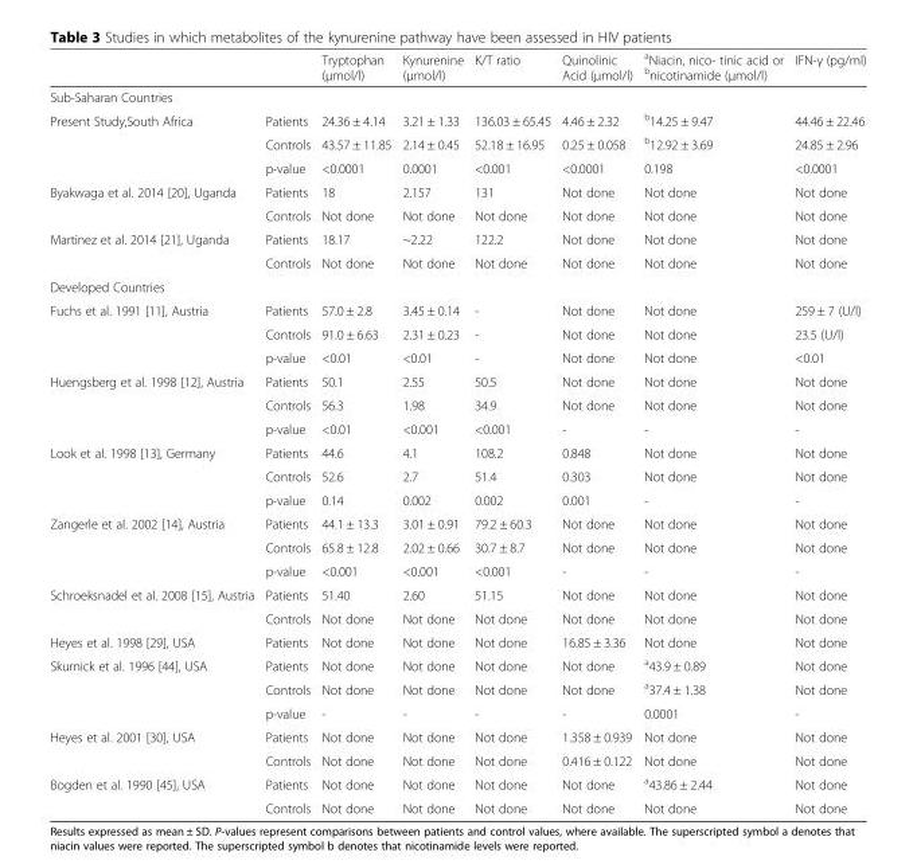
<table><thead><tr><td></td><td></td><td>Tryptophan (μmol/l)</td><td>Kynurenine (μmol/l)</td><td>K/T ratio</td><td>Quinolinic Acid (μmol/l)</td><td><sup>a</sup>Niacin, nico- tinic acid or <sup>b</sup>nicotinamide (μmol/l)</td><td>IFN-γ (pg/ml)</td></tr></thead><tbody><tr><td colspan="8">Sub-Saharan Countries</td></tr><tr><td rowspan="3">Present Study,South Africa</td><td>Patients</td><td>24.36 ± 4.14</td><td>3.21 ± 1.33</td><td>136.03 ± 65.45</td><td>4.46 ± 2.32</td><td><sup>b</sup>14.25 ± 9.47</td><td>44.46 ± 22.46</td></tr><tr><td>Controls</td><td>43.57 ± 11.85</td><td>2.14 ± 0.45</td><td>52.18 ± 16.95</td><td>0.25 ± 0.058</td><td><sup>b</sup>12.92 ± 3.69</td><td>24.85 ± 2.96</td></tr><tr><td>p-value</td><td>&lt;0.0001</td><td>0.0001</td><td>&lt;0.001</td><td>&lt;0.0001</td><td>0.198</td><td>&lt;0.0001</td></tr><tr><td rowspan="2">Byakwaga et al. 2014 [20], Uganda</td><td>Patients</td><td>18</td><td>2.157</td><td>131</td><td>Not done</td><td>Not done</td><td>Not done</td></tr><tr><td>Controls</td><td>Not done</td><td>Not done</td><td>Not done</td><td>Not done</td><td>Not done</td><td>Not done</td></tr><tr><td rowspan="2">Martinez et al. 2014 [21], Uganda</td><td>Patients</td><td>18.17</td><td>~2.22</td><td>122.2</td><td>Not done</td><td>Not done</td><td>Not done</td></tr><tr><td>Controls</td><td>Not done</td><td>Not done</td><td>Not done</td><td>Not done</td><td>Not done</td><td>Not done</td></tr><tr><td colspan="8">Developed Countries</td></tr><tr><td rowspan="3">Fuchs et al. 1991 [11], Austria</td><td>Patients</td><td>57.0 ± 2.8</td><td>3.45 ± 0.14</td><td>-</td><td>Not done</td><td>Not done</td><td>259 ± 7 (U/l)</td></tr><tr><td>Controls</td><td>91.0 ± 6.63</td><td>2.31 ± 0.23</td><td>-</td><td>Not done</td><td>Not done</td><td>23.5 (U/l)</td></tr><tr><td>p-value</td><td>&lt;0.01</td><td>&lt;0.01</td><td>-</td><td>Not done</td><td>Not done</td><td>&lt;0.01</td></tr><tr><td rowspan="3">Huengsberg et al. 1998 [12], Austria</td><td>Patients</td><td>50.1</td><td>2.55</td><td>50.5</td><td>Not done</td><td>Not done</td><td>Not done</td></tr><tr><td>Controls</td><td>56.3</td><td>1.98</td><td>34.9</td><td>Not done</td><td>Not done</td><td>Not done</td></tr><tr><td>p-value</td><td>&lt;0.01</td><td>&lt;0.001</td><td>&lt;0.001</td><td>-</td><td>-</td><td>-</td></tr><tr><td rowspan="3">Look et al. 1998 [13], Germany</td><td>Patients</td><td>44.6</td><td>4.1</td><td>108.2</td><td>0.848</td><td>Not done</td><td>Not done</td></tr><tr><td>Controls</td><td>52.6</td><td>2.7</td><td>51.4</td><td>0.303</td><td>Not done</td><td>Not done</td></tr><tr><td>p-value</td><td>0.14</td><td>0.002</td><td>0.002</td><td>0.001</td><td>-</td><td>-</td></tr><tr><td rowspan="3">Zangerle et al. 2002 [14], Austria</td><td>Patients</td><td>44.1 ± 13.3</td><td>3.01 ± 0.91</td><td>79.2 ± 60.3</td><td>Not done</td><td>Not done</td><td>Not done</td></tr><tr><td>Controls</td><td>65.8 ± 12.8</td><td>2.02 ± 0.66</td><td>30.7 ± 8.7</td><td>Not done</td><td>Not done</td><td>Not done</td></tr><tr><td>p-value</td><td>&lt;0.001</td><td>&lt;0.001</td><td>&lt;0.001</td><td>-</td><td>-</td><td>-</td></tr><tr><td rowspan="2">Schroeksnadel et al. 2008 [15], Austria</td><td>Patients</td><td>51.40</td><td>2.60</td><td>51.15</td><td>Not done</td><td>Not done</td><td>Not done</td></tr><tr><td>Controls</td><td>Not done</td><td>Not done</td><td>Not done</td><td>Not done</td><td>Not done</td><td>Not done</td></tr><tr><td>Heyes et al. 1998 [29], USA</td><td>Patients</td><td>Not done</td><td>Not done</td><td>Not done</td><td>16.85 ± 3.36</td><td>Not done</td><td>Not done</td></tr><tr><td rowspan="3">Skurnick et al. 1996 [44], USA</td><td>Patients</td><td>Not done</td><td>Not done</td><td>Not done</td><td>Not done</td><td><sup>a</sup>43.9 ± 0.89</td><td>Not done</td></tr><tr><td>Controls</td><td>Not done</td><td>Not done</td><td>Not done</td><td>Not done</td><td><sup>a</sup>37.4 ± 1.38</td><td>Not done</td></tr><tr><td>p-value</td><td>-</td><td>-</td><td>-</td><td>-</td><td>0.0001</td><td>-</td></tr><tr><td rowspan="2">Heyes et al. 2001 [30], USA</td><td>Patients</td><td>Not done</td><td>Not done</td><td>Not done</td><td>1.358 ± 0.939</td><td>Not done</td><td>Not done</td></tr><tr><td>Controls</td><td>Not done</td><td>Not done</td><td>Not done</td><td>0.416 ± 0.122</td><td>Not done</td><td>Not done</td></tr><tr><td rowspan="2">Bogden et al. 1990 [45], USA</td><td>Patients</td><td>Not done</td><td>Not done</td><td>Not done</td><td>Not done</td><td><sup>a</sup>43.86 ± 2.44</td><td>Not done</td></tr><tr><td>Controls</td><td>Not done</td><td>Not done</td><td>Not done</td><td>Not done</td><td>Not done</td><td>Not done</td></tr></tbody></table>